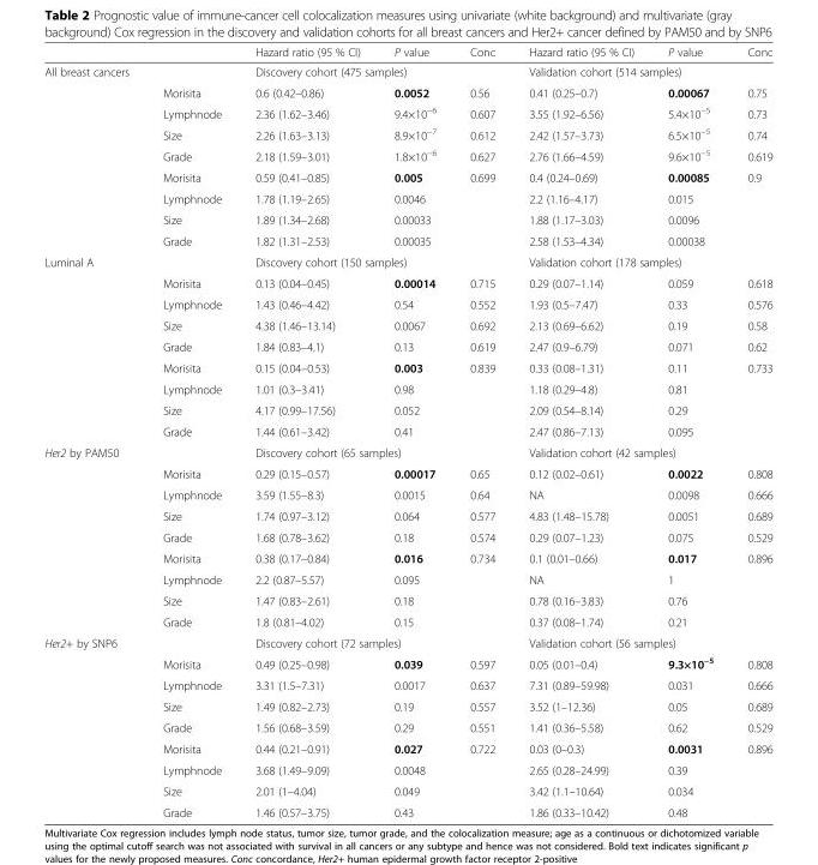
<table><thead><tr><td></td><td></td><td>Hazard ratio (95 % CI)</td><td>P value</td><td>Conc</td><td>Hazard ratio (95 % CI)</td><td>P value</td><td>Conc</td></tr></thead><tbody><tr><td rowspan="9">All breast cancers</td><td></td><td colspan="3">Discovery cohort (475 samples)</td><td colspan="3">Validation cohort (514 samples)</td></tr><tr><td>Morisita</td><td>0.6 (0.42–0.86)</td><td>0.0052</td><td>0.56</td><td>0.41 (0.25–0.7)</td><td>0.00067</td><td>0.75</td></tr><tr><td>Lymphnode</td><td>2.36 (1.62–3.46)</td><td>9.4×10<sup>−6</sup></td><td>0.607</td><td>3.55 (1.92–6.56)</td><td>5.4×10<sup>−5</sup></td><td>0.73</td></tr><tr><td>Size</td><td>2.26 (1.63–3.13)</td><td>8.9×10<sup>−7</sup></td><td>0.612</td><td>2.42 (1.57–3.73)</td><td>6.5×10<sup>−5</sup></td><td>0.74</td></tr><tr><td>Grade</td><td>2.18 (1.59–3.01)</td><td>1.8×10<sup>−6</sup></td><td>0.627</td><td>2.76 (1.66–4.59)</td><td>9.6×10<sup>−5</sup></td><td>0.619</td></tr><tr><td>Morisita</td><td>0.59 (0.41–0.85)</td><td>0.005</td><td rowspan="4">0.699</td><td>0.4 (0.24–0.69)</td><td>0.00085</td><td rowspan="4">0.9</td></tr><tr><td>Lymphnode</td><td>1.78 (1.19–2.65)</td><td>0.0046</td><td>2.2 (1.16–4.17)</td><td>0.015</td></tr><tr><td>Size</td><td>1.89 (1.34–2.68)</td><td>0.00033</td><td>1.88 (1.17–3.03)</td><td>0.0096</td></tr><tr><td>Grade</td><td>1.82 (1.31–2.53)</td><td>0.00035</td><td>2.58 (1.53–4.34)</td><td>0.00038</td></tr><tr><td rowspan="9">Luminal A</td><td></td><td colspan="3">Discovery cohort (150 samples)</td><td colspan="3">Validation cohort (178 samples)</td></tr><tr><td>Morisita</td><td>0.13 (0.04–0.45)</td><td>0.00014</td><td>0.715</td><td>0.29 (0.07–1.14)</td><td>0.059</td><td>0.618</td></tr><tr><td>Lymphnode</td><td>1.43 (0.46–4.42)</td><td>0.54</td><td>0.552</td><td>1.93 (0.5–7.47)</td><td>0.33</td><td>0.576</td></tr><tr><td>Size</td><td>4.38 (1.46–13.14)</td><td>0.0067</td><td>0.692</td><td>2.13 (0.69–6.62)</td><td>0.19</td><td>0.58</td></tr><tr><td>Grade</td><td>1.84 (0.83–4.1)</td><td>0.13</td><td>0.619</td><td>2.47 (0.9–6.79)</td><td>0.071</td><td>0.62</td></tr><tr><td>Morisita</td><td>0.15 (0.04–0.53)</td><td>0.003</td><td>0.839</td><td>0.33 (0.08–1.31)</td><td>0.11</td><td>0.733</td></tr><tr><td>Lymphnode</td><td>1.01 (0.3–3.41)</td><td>0.98</td><td></td><td>1.18 (0.29–4.8)</td><td>0.81</td><td></td></tr><tr><td>Size</td><td>4.17 (0.99–17.56)</td><td>0.052</td><td></td><td>2.09 (0.54–8.14)</td><td>0.29</td><td></td></tr><tr><td>Grade</td><td>1.44 (0.61–3.42)</td><td>0.41</td><td></td><td>2.47 (0.86–7.13)</td><td>0.095</td><td></td></tr><tr><td rowspan="9">Her2 by PAM50</td><td></td><td colspan="3">Discovery cohort (65 samples)</td><td colspan="3">Validation cohort (42 samples)</td></tr><tr><td>Morisita</td><td>0.29 (0.15–0.57)</td><td>0.00017</td><td>0.65</td><td>0.12 (0.02–0.61)</td><td>0.0022</td><td>0.808</td></tr><tr><td>Lymphnode</td><td>3.59 (1.55–8.3)</td><td>0.0015</td><td>0.64</td><td>NA</td><td>0.0098</td><td>0.666</td></tr><tr><td>Size</td><td>1.74 (0.97–3.12)</td><td>0.064</td><td>0.577</td><td>4.83 (1.48–15.78)</td><td>0.0051</td><td>0.689</td></tr><tr><td>Grade</td><td>1.68 (0.78–3.62)</td><td>0.18</td><td>0.574</td><td>0.29 (0.07–1.23)</td><td>0.075</td><td>0.529</td></tr><tr><td>Morisita</td><td>0.38 (0.17–0.84)</td><td>0.016</td><td>0.734</td><td>0.1 (0.01–0.66)</td><td>0.017</td><td>0.896</td></tr><tr><td>Lymphnode</td><td>2.2 (0.87–5.57)</td><td>0.095</td><td></td><td>NA</td><td>1</td><td></td></tr><tr><td>Size</td><td>1.47 (0.83–2.61)</td><td>0.18</td><td></td><td>0.78 (0.16–3.83)</td><td>0.76</td><td></td></tr><tr><td>Grade</td><td>1.8 (0.81–4.02)</td><td>0.15</td><td></td><td>0.37 (0.08–1.74)</td><td>0.21</td><td></td></tr><tr><td rowspan="9">Her2+ by SNP6</td><td></td><td colspan="3">Discovery cohort (72 samples)</td><td colspan="3">Validation cohort (56 samples)</td></tr><tr><td>Morisita</td><td>0.49 (0.25–0.98)</td><td>0.039</td><td>0.597</td><td>0.05 (0.01–0.4)</td><td>9.3×10<sup>−5</sup></td><td>0.808</td></tr><tr><td>Lymphnode</td><td>3.31 (1.5–7.31)</td><td>0.0017</td><td>0.637</td><td>7.31 (0.89–59.98)</td><td>0.031</td><td>0.666</td></tr><tr><td>Size</td><td>1.49 (0.82–2.73)</td><td>0.19</td><td>0.557</td><td>3.52 (1–12.36)</td><td>0.05</td><td>0.689</td></tr><tr><td>Grade</td><td>1.56 (0.68–3.59)</td><td>0.29</td><td>0.551</td><td>1.41 (0.36–5.58)</td><td>0.62</td><td>0.529</td></tr><tr><td>Morisita</td><td>0.44 (0.21–0.91)</td><td>0.027</td><td>0.722</td><td>0.03 (0–0.3)</td><td>0.0031</td><td>0.896</td></tr><tr><td>Lymphnode</td><td>3.68 (1.49–9.09)</td><td>0.0048</td><td></td><td>2.65 (0.28–24.99)</td><td>0.39</td><td></td></tr><tr><td>Size</td><td>2.01 (1–4.04)</td><td>0.049</td><td></td><td>3.42 (1.1–10.64)</td><td>0.034</td><td></td></tr><tr><td>Grade</td><td>1.46 (0.57–3.75)</td><td>0.43</td><td></td><td>1.86 (0.33–10.42)</td><td>0.48</td><td></td></tr></tbody></table>